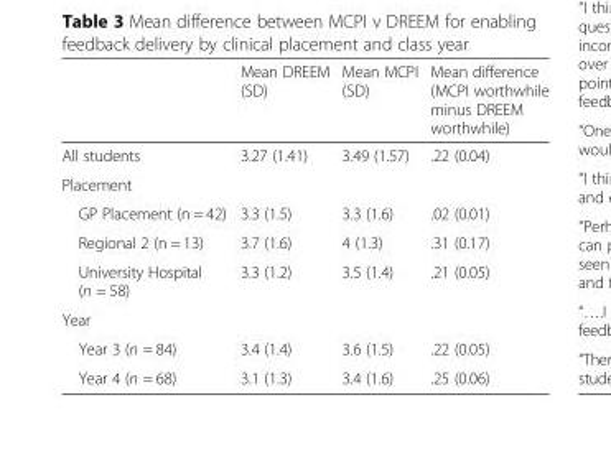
<table><thead><tr><td></td><td>Mean DREEM (SD)</td><td>Mean MCPI (SD)</td><td>Mean difference (MCPI worthwhile minus DREEM worthwhile)</td></tr></thead><tbody><tr><td>All students</td><td>3.27 (1.41)</td><td>3.49 (1.57)</td><td>.22 (0.04)</td></tr><tr><td colspan="4">Placement</td></tr><tr><td>GP Placement (n = 42)</td><td>3.3 (1.5)</td><td>3.3 (1.6)</td><td>.02 (0.01)</td></tr><tr><td>Regional 2 (n = 13)</td><td>3.7 (1.6)</td><td>4 (1.3)</td><td>.31 (0.17)</td></tr><tr><td>University Hospital (n = 58)</td><td>3.3 (1.2)</td><td>3.5 (1.4)</td><td>.21 (0.05)</td></tr><tr><td colspan="4">Year</td></tr><tr><td>Year 3 (n = 84)</td><td>3.4 (1.4)</td><td>3.6 (1.5)</td><td>.22 (0.05)</td></tr><tr><td>Year 4 (n = 68)</td><td>3.1 (1.3)</td><td>3.4 (1.6)</td><td>.25 (0.06)</td></tr></tbody></table>